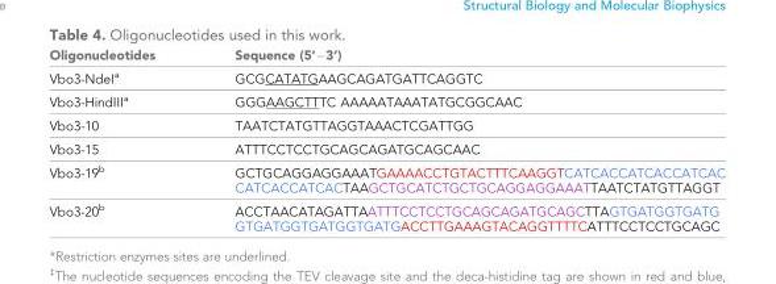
<table><thead><tr><td>Oligonucleotides</td><td>Sequence (5’−3’)</td></tr></thead><tbody><tr><td>Vbo3-NdeI<sup>a</sup></td><td>GCGCATATGAAGCAGATGATTCAGGTC</td></tr><tr><td>Vbo3-HindIII<sup>a</sup></td><td>GGGAAGCTTTC AAAAATAAATATGCGGCAAC</td></tr><tr><td>Vbo3-10</td><td>TAATCTATGTTAGGTAAACTCGATTGG</td></tr><tr><td>Vbo3-15</td><td>ATTTCCTCCTGCAGCAGATGCAGCAAC</td></tr><tr><td>Vbo3-19<sup>b</sup></td><td>GCTGCAGGAGGAAATGAAAACCTGTACTTTCAAGGTCATCACCATCACCATCAC CATCACCATCACTAAGCTGCATCTGCTGCAGGAGGAAATTAATCTATGTTAGGT</td></tr><tr><td>Vbo3-20<sup>b</sup></td><td>ACCTAACATAGATTAATTTCCTCCTGCAGCAGATGCAGCTTAGTGATGGTGATG GTGATGGTGATGGTGATGACCTTGAAAGTACAGGTTTTCATTTCCTCCTGCAGC</td></tr></tbody></table>